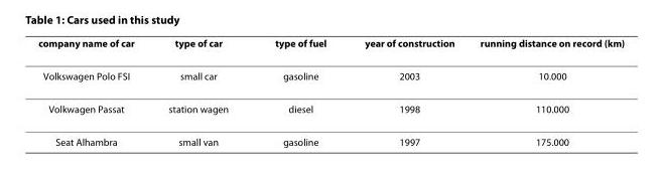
<table><thead><tr><td>company name of car</td><td>type of car</td><td>type of fuel</td><td>year of construction</td><td>running distance on record (km)</td></tr></thead><tbody><tr><td>Volkswagen Polo FSI</td><td>small car</td><td>gasoline</td><td>2003</td><td>10.000</td></tr><tr><td>Volkwagen Passat</td><td>station wagen</td><td>diesel</td><td>1998</td><td>110.000</td></tr><tr><td>Seat Alhambra</td><td>small van</td><td>gasoline</td><td>1997</td><td>175.000</td></tr></tbody></table>